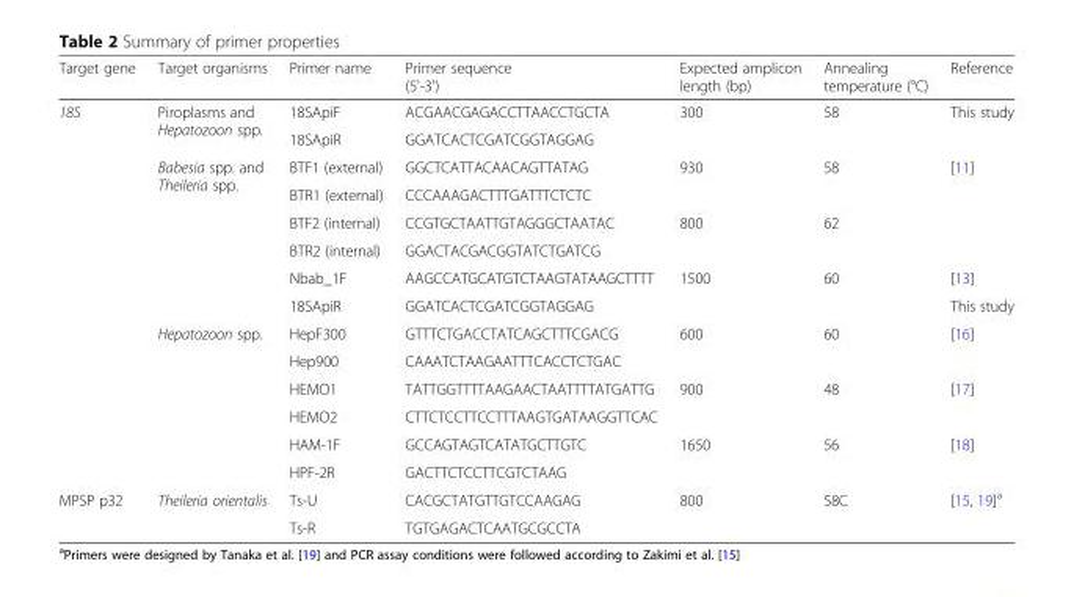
<table><thead><tr><td>Target gene</td><td>Target organisms</td><td>Primer name</td><td>Primer sequence (5&#x27;-3&#x27;)</td><td>Expected amplicon length (bp)</td><td>Annealing temperature (°C)</td><td>Reference</td></tr></thead><tbody><tr><td rowspan="14">18S</td><td rowspan="2">Piroplasms and Hepatozoon spp.</td><td>18SApiF</td><td>ACGAACGAGACCTTAACCTGCTA</td><td rowspan="2">300</td><td rowspan="2">58</td><td rowspan="2">This study</td></tr><tr><td>18SApiR</td><td>GGATCACTCGATCGGTAGGAG</td></tr><tr><td rowspan="6">Babesia spp. and Theileria spp.</td><td>BTF1 (external)</td><td>GGCTCATTACAACAGTTATAG</td><td rowspan="2">930</td><td rowspan="2">58</td><td rowspan="4">[11]</td></tr><tr><td>BTR1 (external)</td><td>CCCAAAGACTTTGATTTCTCTC</td></tr><tr><td>BTF2 (internal)</td><td>CCGTGCTAATTGTAGGGCTAATAC</td><td rowspan="2">800</td><td rowspan="2">62</td></tr><tr><td>BTR2 (internal)</td><td>GGACTACGACGGTATCTGATCG</td></tr><tr><td>Nbab_1F</td><td>AAGCCATGCATGTCTAAGTATAAGCTTTT</td><td rowspan="2">1500</td><td rowspan="2">60</td><td>[13]</td></tr><tr><td>18SApiR</td><td>GGATCACTCGATCGGTAGGAG</td><td>This study</td></tr><tr><td rowspan="6">Hepatozoon spp.</td><td>HepF300</td><td>GTTTCTGACCTATCAGCTTTCGACG</td><td rowspan="2">600</td><td rowspan="2">60</td><td rowspan="2">[16]</td></tr><tr><td>Hep900</td><td>CAAATCTAAGAATTTCACCTCTGAC</td></tr><tr><td>HEMO1</td><td>TATTGGTTTTAAGAACTAATTTTATGATTG</td><td rowspan="2">900</td><td rowspan="2">48</td><td rowspan="2">[17]</td></tr><tr><td>HEMO2</td><td>CTTCTCCTTCCTTTAAGTGATAAGGTTCAC</td></tr><tr><td>HAM-1F</td><td>GCCAGTAGTCATATGCTTGTC</td><td rowspan="2">1650</td><td rowspan="2">56</td><td rowspan="2">[18]</td></tr><tr><td>HPF-2R</td><td>GACTTCTCCTTCGTCTAAG</td></tr><tr><td rowspan="2">MPSP p32</td><td rowspan="2">Theileria orientalis</td><td>Ts-U</td><td>CACGCTATGTTGTCCAAGAG</td><td rowspan="2">800</td><td rowspan="2">58C</td><td rowspan="2">[15, 19]<sup>a</sup></td></tr><tr><td>Ts-R</td><td>TGTGAGACTCAATGCGCCTA</td></tr></tbody></table>